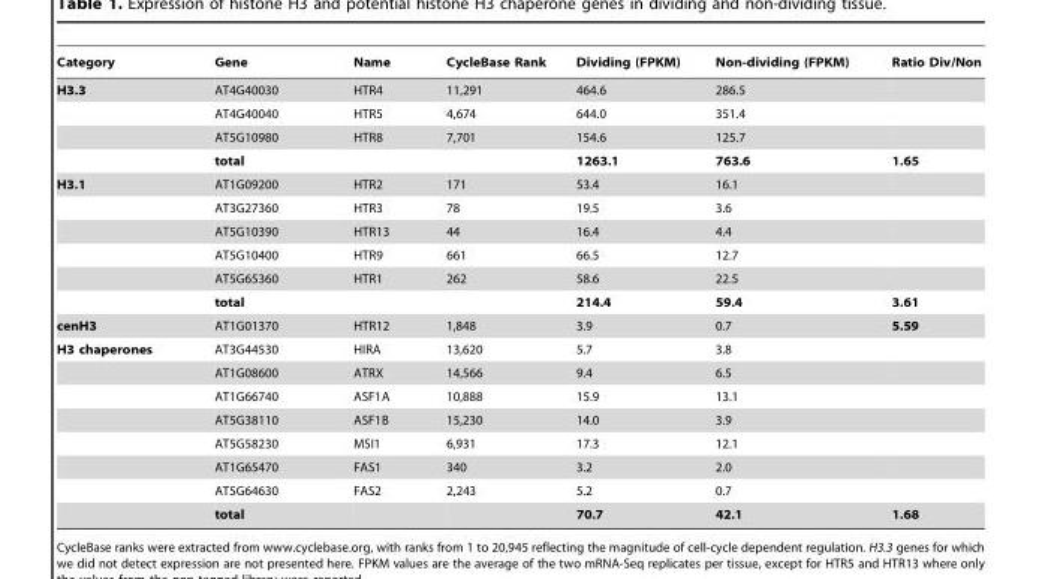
<table><thead><tr><td>Category</td><td>Gene</td><td>Name</td><td>CycleBase Rank</td><td>Dividing (FPKM)</td><td>Non-dividing (FPKM)</td><td>Ratio Div/Non</td></tr></thead><tbody><tr><td rowspan="4">H3.3</td><td>AT4G40030</td><td>HTR4</td><td>11,291</td><td>464.6</td><td>286.5</td><td></td></tr><tr><td>AT4G40040</td><td>HTR5</td><td>4,674</td><td>644.0</td><td>351.4</td><td></td></tr><tr><td>AT5G10980</td><td>HTR8</td><td>7,701</td><td>154.6</td><td>125.7</td><td></td></tr><tr><td>total</td><td></td><td></td><td>1263.1</td><td>763.6</td><td>1.65</td></tr><tr><td rowspan="6">H3.1</td><td>AT1G09200</td><td>HTR2</td><td>171</td><td>53.4</td><td>16.1</td><td></td></tr><tr><td>AT3G27360</td><td>HTR3</td><td>78</td><td>19.5</td><td>3.6</td><td></td></tr><tr><td>AT5G10390</td><td>HTR13</td><td>44</td><td>16.4</td><td>4.4</td><td></td></tr><tr><td>AT5G10400</td><td>HTR9</td><td>661</td><td>66.5</td><td>12.7</td><td></td></tr><tr><td>AT5G65360</td><td>HTR1</td><td>262</td><td>58.6</td><td>22.5</td><td></td></tr><tr><td>total</td><td></td><td></td><td>214.4</td><td>59.4</td><td>3.61</td></tr><tr><td>cenH3</td><td>AT1G01370</td><td>HTR12</td><td>1,848</td><td>3.9</td><td>0.7</td><td>5.59</td></tr><tr><td rowspan="8">H3 chaperones</td><td>AT3G44530</td><td>HIRA</td><td>13,620</td><td>5.7</td><td>3.8</td><td></td></tr><tr><td>AT1G08600</td><td>ATRX</td><td>14,566</td><td>9.4</td><td>6.5</td><td></td></tr><tr><td>AT1G66740</td><td>ASF1A</td><td>10,888</td><td>15.9</td><td>13.1</td><td></td></tr><tr><td>AT5G38110</td><td>ASF1B</td><td>15,230</td><td>14.0</td><td>3.9</td><td></td></tr><tr><td>AT5G58230</td><td>MSI1</td><td>6,931</td><td>17.3</td><td>12.1</td><td></td></tr><tr><td>AT1G65470</td><td>FAS1</td><td>340</td><td>3.2</td><td>2.0</td><td></td></tr><tr><td>AT5G64630</td><td>FAS2</td><td>2,243</td><td>5.2</td><td>0.7</td><td></td></tr><tr><td>total</td><td></td><td></td><td>70.7</td><td>42.1</td><td>1.68</td></tr></tbody></table>